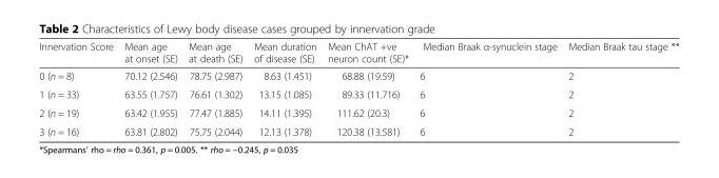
<table><thead><tr><td>Innervation Score</td><td>Mean age at onset (SE)</td><td>Mean age at death (SE)</td><td>Mean duration of disease (SE)</td><td>Mean ChAT +ve neuron count (SE)*</td><td>Median Braak α-synuclein stage</td><td>Median Braak tau stage **</td></tr></thead><tbody><tr><td>0 (n = 8)</td><td>70.12 (2.546)</td><td>78.75 (2.987)</td><td>8.63 (1.451)</td><td>68.88 (19.59)</td><td>6</td><td>2</td></tr><tr><td>1 (n = 33)</td><td>63.55 (1.757)</td><td>76.61 (1.302)</td><td>13.15 (1.085)</td><td>89.33 (11.716)</td><td>6</td><td>2</td></tr><tr><td>2 (n = 19)</td><td>63.42 (1.955)</td><td>77.47 (1.885)</td><td>14.11 (1.395)</td><td>111.62 (20.3)</td><td>6</td><td>2</td></tr><tr><td>3 (n = 16)</td><td>63.81 (2.802)</td><td>75.75 (2.044)</td><td>12.13 (1.378)</td><td>120.38 (13.581)</td><td>6</td><td>2</td></tr></tbody></table>